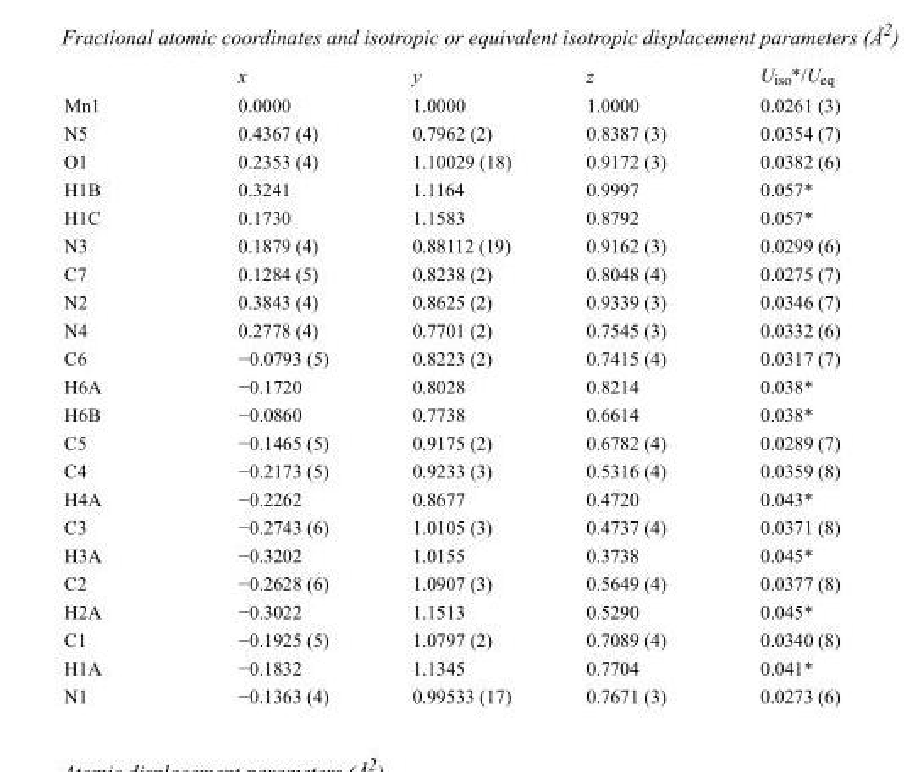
<table><thead><tr><td></td><td>x</td><td>y</td><td>z</td><td>U<sub>iso</sub>*/U<sub>eq</sub></td></tr></thead><tbody><tr><td>Mn1</td><td>0.0000</td><td>1.0000</td><td>1.0000</td><td>0.0261 (3)</td></tr><tr><td>N5</td><td>0.4367 (4)</td><td>0.7962 (2)</td><td>0.8387 (3)</td><td>0.0354 (7)</td></tr><tr><td>O1</td><td>0.2353 (4)</td><td>1.10029 (18)</td><td>0.9172 (3)</td><td>0.0382 (6)</td></tr><tr><td>H1B</td><td>0.3241</td><td>1.1164</td><td>0.9997</td><td>0.057*</td></tr><tr><td>H1C</td><td>0.1730</td><td>1.1583</td><td>0.8792</td><td>0.057*</td></tr><tr><td>N3</td><td>0.1879 (4)</td><td>0.88112 (19)</td><td>0.9162 (3)</td><td>0.0299 (6)</td></tr><tr><td>C7</td><td>0.1284 (5)</td><td>0.8238 (2)</td><td>0.8048 (4)</td><td>0.0275 (7)</td></tr><tr><td>N2</td><td>0.3843 (4)</td><td>0.8625 (2)</td><td>0.9339 (3)</td><td>0.0346 (7)</td></tr><tr><td>N4</td><td>0.2778 (4)</td><td>0.7701 (2)</td><td>0.7545 (3)</td><td>0.0332 (6)</td></tr><tr><td>C6</td><td>−0.0793 (5)</td><td>0.8223 (2)</td><td>0.7415 (4)</td><td>0.0317 (7)</td></tr><tr><td>H6A</td><td>−0.1720</td><td>0.8028</td><td>0.8214</td><td>0.038*</td></tr><tr><td>H6B</td><td>−0.0860</td><td>0.7738</td><td>0.6614</td><td>0.038*</td></tr><tr><td>C5</td><td>−0.1465 (5)</td><td>0.9175 (2)</td><td>0.6782 (4)</td><td>0.0289 (7)</td></tr><tr><td>C4</td><td>−0.2173 (5)</td><td>0.9233 (3)</td><td>0.5316 (4)</td><td>0.0359 (8)</td></tr><tr><td>H4A</td><td>−0.2262</td><td>0.8677</td><td>0.4720</td><td>0.043*</td></tr><tr><td>C3</td><td>−0.2743 (6)</td><td>1.0105 (3)</td><td>0.4737 (4)</td><td>0.0371 (8)</td></tr><tr><td>H3A</td><td>−0.3202</td><td>1.0155</td><td>0.3738</td><td>0.045*</td></tr><tr><td>C2</td><td>−0.2628 (6)</td><td>1.0907 (3)</td><td>0.5649 (4)</td><td>0.0377 (8)</td></tr><tr><td>H2A</td><td>−0.3022</td><td>1.1513</td><td>0.5290</td><td>0.045*</td></tr><tr><td>C1</td><td>−0.1925 (5)</td><td>1.0797 (2)</td><td>0.7089 (4)</td><td>0.0340 (8)</td></tr><tr><td>H1A</td><td>−0.1832</td><td>1.1345</td><td>0.7704</td><td>0.041*</td></tr><tr><td>N1</td><td>−0.1363 (4)</td><td>0.99533 (17)</td><td>0.7671 (3)</td><td>0.0273 (6)</td></tr></tbody></table>